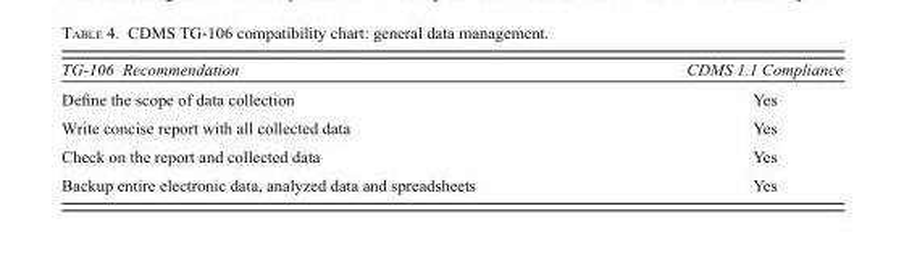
<table><thead><tr><td>TG-106 Recommendation</td><td>CDMS 1.1 Compliance</td></tr></thead><tbody><tr><td>Define the scope of data collection</td><td>Yes</td></tr><tr><td>Write concise report with all collected data</td><td>Yes</td></tr><tr><td>Check on the report and collected data</td><td>Yes</td></tr><tr><td>Backup entire electronic data, analyzed data and spreadsheets</td><td>Yes</td></tr></tbody></table>